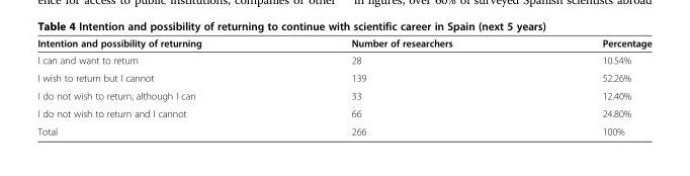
<table><thead><tr><td>Intention and possibility of returning</td><td>Number of researchers</td><td>Percentage</td></tr></thead><tbody><tr><td>I can and want to return</td><td>28</td><td>10.54%</td></tr><tr><td>I wish to return but I cannot</td><td>139</td><td>52.26%</td></tr><tr><td>I do not wish to return, although I can</td><td>33</td><td>12.40%</td></tr><tr><td>I do not wish to return and I cannot</td><td>66</td><td>24.80%</td></tr><tr><td>Total</td><td>266</td><td>100%</td></tr></tbody></table>